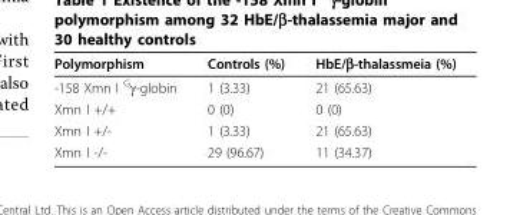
<table><thead><tr><td>Polymorphism</td><td>Controls (%)</td><td>HbE/β-thalassmeia (%)</td></tr></thead><tbody><tr><td>-158 Xmn I <sup>G</sup>γ-globin</td><td>1 (3.33)</td><td>21 (65.63)</td></tr><tr><td>Xmn I +/+</td><td>0 (0)</td><td>0 (0)</td></tr><tr><td>Xmn I +/-</td><td>1 (3.33)</td><td>21 (65.63)</td></tr><tr><td>Xmn I -/-</td><td>29 (96.67)</td><td>11 (34.37)</td></tr></tbody></table>